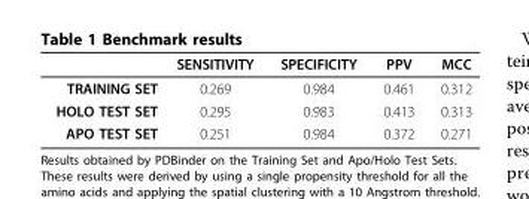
<table><thead><tr><td></td><td>SENSITIVITY</td><td>SPECIFICITY</td><td>PPV</td><td>MCC</td></tr></thead><tbody><tr><td>TRAINING SET</td><td>0.269</td><td>0.984</td><td>0.461</td><td>0.312</td></tr><tr><td>HOLO TEST SET</td><td>0.295</td><td>0.983</td><td>0.413</td><td>0.313</td></tr><tr><td>APO TEST SET</td><td>0.251</td><td>0.984</td><td>0.372</td><td>0.271</td></tr></tbody></table>